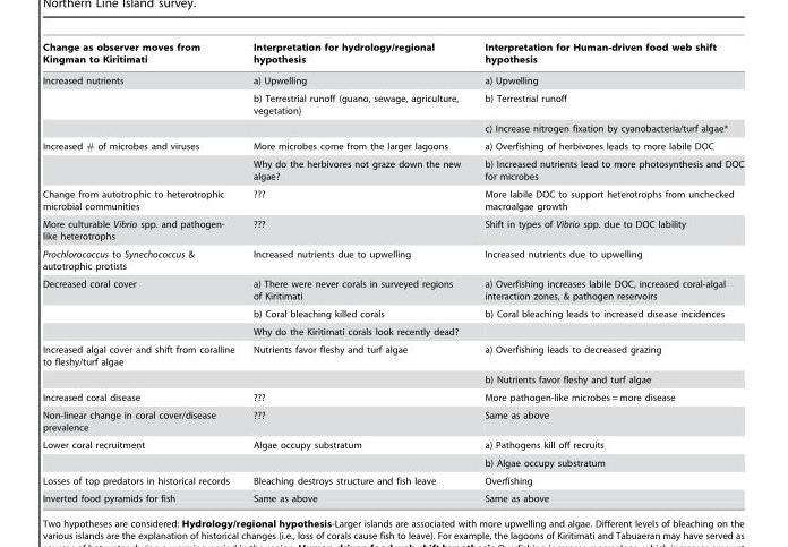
<table><thead><tr><td>Change as observer moves from Kingman to Kiritimati</td><td>Interpretation for hydrology/regional hypothesis</td><td>Interpretation for Human-driven food web shift hypothesis</td></tr></thead><tbody><tr><td rowspan="3">Increased nutrients</td><td>a) Upwelling</td><td>a) Upwelling</td></tr><tr><td>b) Terrestrial runoff (guano, sewage, agriculture, vegetation)</td><td>b) Terrestrial runoff</td></tr><tr><td></td><td>c) Increase nitrogen fixation by cyanobacteria/turf algae*</td></tr><tr><td rowspan="2">Increased # of microbes and viruses</td><td>More microbes come from the larger lagoons</td><td>a) Overfishing of herbivores leads to more labile DOC</td></tr><tr><td>Why do the herbivores not graze down the new algae?</td><td>b) Increased nutrients lead to more photosynthesis and DOC for microbes</td></tr><tr><td>Change from autotrophic to heterotrophic microbial communities</td><td>???</td><td>More labile DOC to support heterotrophs from unchecked macroalgae growth</td></tr><tr><td>More culturable Vibrio spp. and pathogen- like heterotrophs</td><td>???</td><td>Shift in types of Vibrio spp. due to DOC lability</td></tr><tr><td>Prochlorococcus to Synechococcus &amp; autotrophic protists</td><td>Increased nutrients due to upwelling</td><td>Increased nutrients due to upwelling</td></tr><tr><td rowspan="3">Decreased coral cover</td><td>a) There were never corals in surveyed regions of Kiritimati</td><td>a) Overfishing increases labile DOC, increased coral-algal interaction zones, &amp; pathogen reservoirs</td></tr><tr><td>b) Coral bleaching killed corals</td><td>b) Coral bleaching leads to increased disease incidences</td></tr><tr><td>Why do the Kiritimati corals look recently dead?</td><td></td></tr><tr><td rowspan="2">Increased algal cover and shift from coralline to fleshy/turf algae</td><td>Nutrients favor fleshy and turf algae</td><td>a) Overfishing leads to decreased grazing</td></tr><tr><td></td><td>b) Nutrients favor fleshy and turf algae</td></tr><tr><td>Increased coral disease</td><td>???</td><td>More pathogen-like microbes = more disease</td></tr><tr><td>Non-linear change in coral cover/disease prevalence</td><td>???</td><td>Same as above</td></tr><tr><td rowspan="2">Lower coral recruitment</td><td>Algae occupy substratum</td><td>a) Pathogens kill off recruits</td></tr><tr><td></td><td>b) Algae occupy substratum</td></tr><tr><td>Losses of top predators in historical records</td><td>Bleaching destroys structure and fish leave</td><td>Overfishing</td></tr><tr><td>Inverted food pyramids for fish</td><td>Same as above</td><td>Same as above</td></tr></tbody></table>